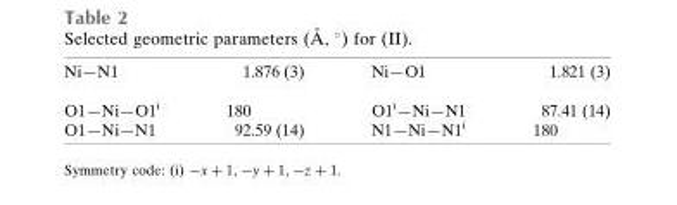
<table><tbody><tr><td>Ni—N1</td><td>1.876 (3)</td><td>Ni—O1</td><td>1.821 (3)</td></tr><tr><td>O1—Ni—O1<sup>i</sup></td><td>180</td><td>O1<sup>i</sup>—Ni—N1</td><td>87.41 (14)</td></tr><tr><td>O1—Ni—N1</td><td>92.59 (14)</td><td>N1—Ni—N1<sup>i</sup></td><td>180</td></tr></tbody></table>